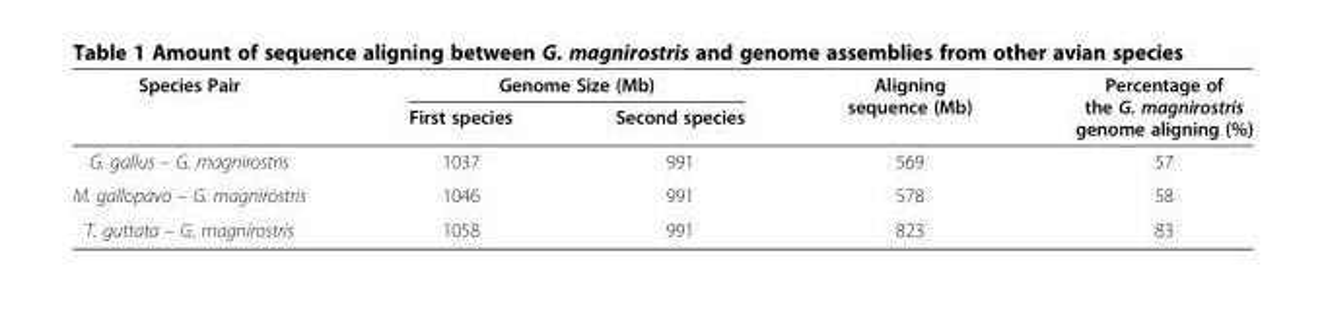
<table><thead><tr><td rowspan="2">Species Pair</td><td colspan="2">Genome Size (Mb)</td><td rowspan="2">Aligning sequence (Mb)</td><td rowspan="2">Percentage of the G. magnirostris genome aligning (%)</td></tr><tr><td>First species</td><td>Second species</td></tr></thead><tbody><tr><td>G. gallus – G. magnirostris</td><td>1037</td><td>991</td><td>569</td><td>57</td></tr><tr><td>M. gallopavo – G. magnirostris</td><td>1046</td><td>991</td><td>578</td><td>58</td></tr><tr><td>T. guttata – G. magnirostris</td><td>1058</td><td>991</td><td>823</td><td>83</td></tr></tbody></table>